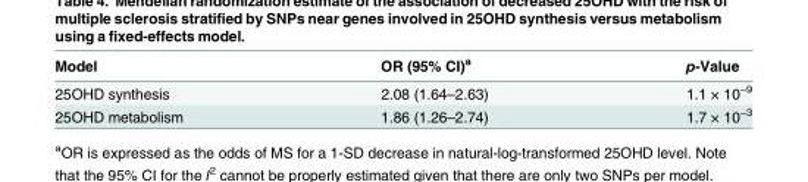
<table><thead><tr><td>Model</td><td>OR (95% CI)<sup>a</sup></td><td>p-Value</td></tr></thead><tbody><tr><td>25OHD synthesis</td><td>2.08 (1.64–2.63)</td><td>1.1 × 10<sup>−9</sup></td></tr><tr><td>25OHD metabolism</td><td>1.86 (1.26–2.74)</td><td>1.7 × 10<sup>−3</sup></td></tr></tbody></table>